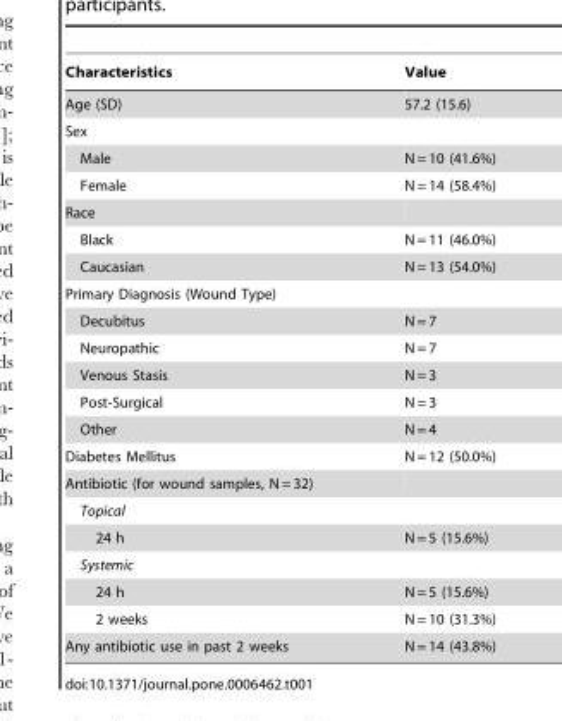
<table><thead><tr><td>Characteristics</td><td>Value</td></tr></thead><tbody><tr><td>Age (SD)</td><td>57.2 (15.6)</td></tr><tr><td colspan="2">Sex</td></tr><tr><td>Male</td><td>N = 10 (41.6%)</td></tr><tr><td>Female</td><td>N = 14 (58.4%)</td></tr><tr><td colspan="2">Race</td></tr><tr><td>Black</td><td>N = 11 (46.0%)</td></tr><tr><td>Caucasian</td><td>N = 13 (54.0%)</td></tr><tr><td colspan="2">Primary Diagnosis (Wound Type)</td></tr><tr><td>Decubitus</td><td>N = 7</td></tr><tr><td>Neuropathic</td><td>N = 7</td></tr><tr><td>Venous Stasis</td><td>N = 3</td></tr><tr><td>Post-Surgical</td><td>N = 3</td></tr><tr><td>Other</td><td>N = 4</td></tr><tr><td>Diabetes Mellitus</td><td>N = 12 (50.0%)</td></tr><tr><td colspan="2">Antibiotic (for wound samples, N = 32)</td></tr><tr><td colspan="2">Topical</td></tr><tr><td>24 h</td><td>N = 5 (15.6%)</td></tr><tr><td colspan="2">Systemic</td></tr><tr><td>24 h</td><td>N = 5 (15.6%)</td></tr><tr><td>2 weeks</td><td>N = 10 (31.3%)</td></tr><tr><td>Any antibiotic use in past 2 weeks</td><td>N = 14 (43.8%)</td></tr></tbody></table>